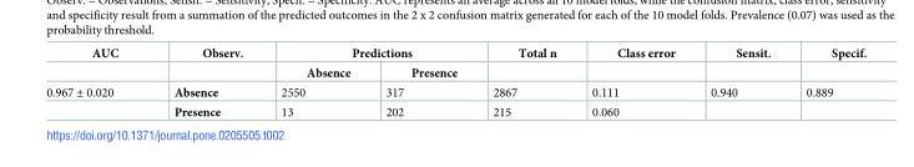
<table><thead><tr><td rowspan="2">AUC</td><td rowspan="2">Observ.</td><td colspan="2">Predictions</td><td rowspan="2">Total n</td><td rowspan="2">Class error</td><td rowspan="2">Sensit.</td><td rowspan="2">Specif.</td></tr><tr><td>Absence</td><td>Presence</td></tr></thead><tbody><tr><td rowspan="2">0.967 ± 0.020</td><td>Absence</td><td>2550</td><td>317</td><td>2867</td><td>0.111</td><td>0.940</td><td>0.889</td></tr><tr><td>Presence</td><td>13</td><td>202</td><td>215</td><td>0.060</td><td></td><td></td></tr></tbody></table>